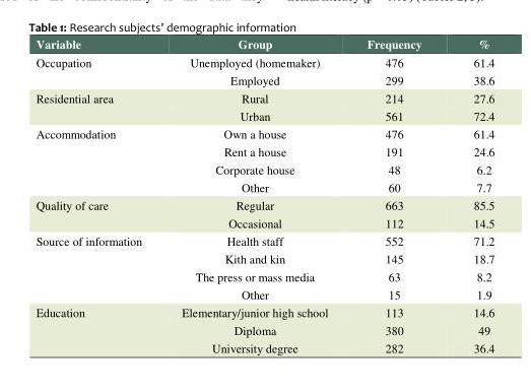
<table><thead><tr><td>Variable</td><td>Group</td><td>Frequency</td><td>%</td></tr></thead><tbody><tr><td rowspan="2">Occupation</td><td>Unemployed (homemaker)</td><td>476</td><td>61.4</td></tr><tr><td>Employed</td><td>299</td><td>38.6</td></tr><tr><td rowspan="2">Residential area</td><td>Rural</td><td>214</td><td>27.6</td></tr><tr><td>Urban</td><td>561</td><td>72.4</td></tr><tr><td rowspan="4">Accommodation</td><td>Own a house</td><td>476</td><td>61.4</td></tr><tr><td>Rent a house</td><td>191</td><td>24.6</td></tr><tr><td>Corporate house</td><td>48</td><td>6.2</td></tr><tr><td>Other</td><td>60</td><td>7.7</td></tr><tr><td rowspan="2">Quality of care</td><td>Regular</td><td>663</td><td>85.5</td></tr><tr><td>Occasional</td><td>112</td><td>14.5</td></tr><tr><td rowspan="4">Source of information</td><td>Health staff</td><td>552</td><td>71.2</td></tr><tr><td>Kith and kin</td><td>145</td><td>18.7</td></tr><tr><td>The press or mass media</td><td>63</td><td>8.2</td></tr><tr><td>Other</td><td>15</td><td>1.9</td></tr><tr><td rowspan="3">Education</td><td>Elementary/junior high school</td><td>113</td><td>14.6</td></tr><tr><td>Diploma</td><td>380</td><td>49</td></tr><tr><td>University degree</td><td>282</td><td>36.4</td></tr></tbody></table>